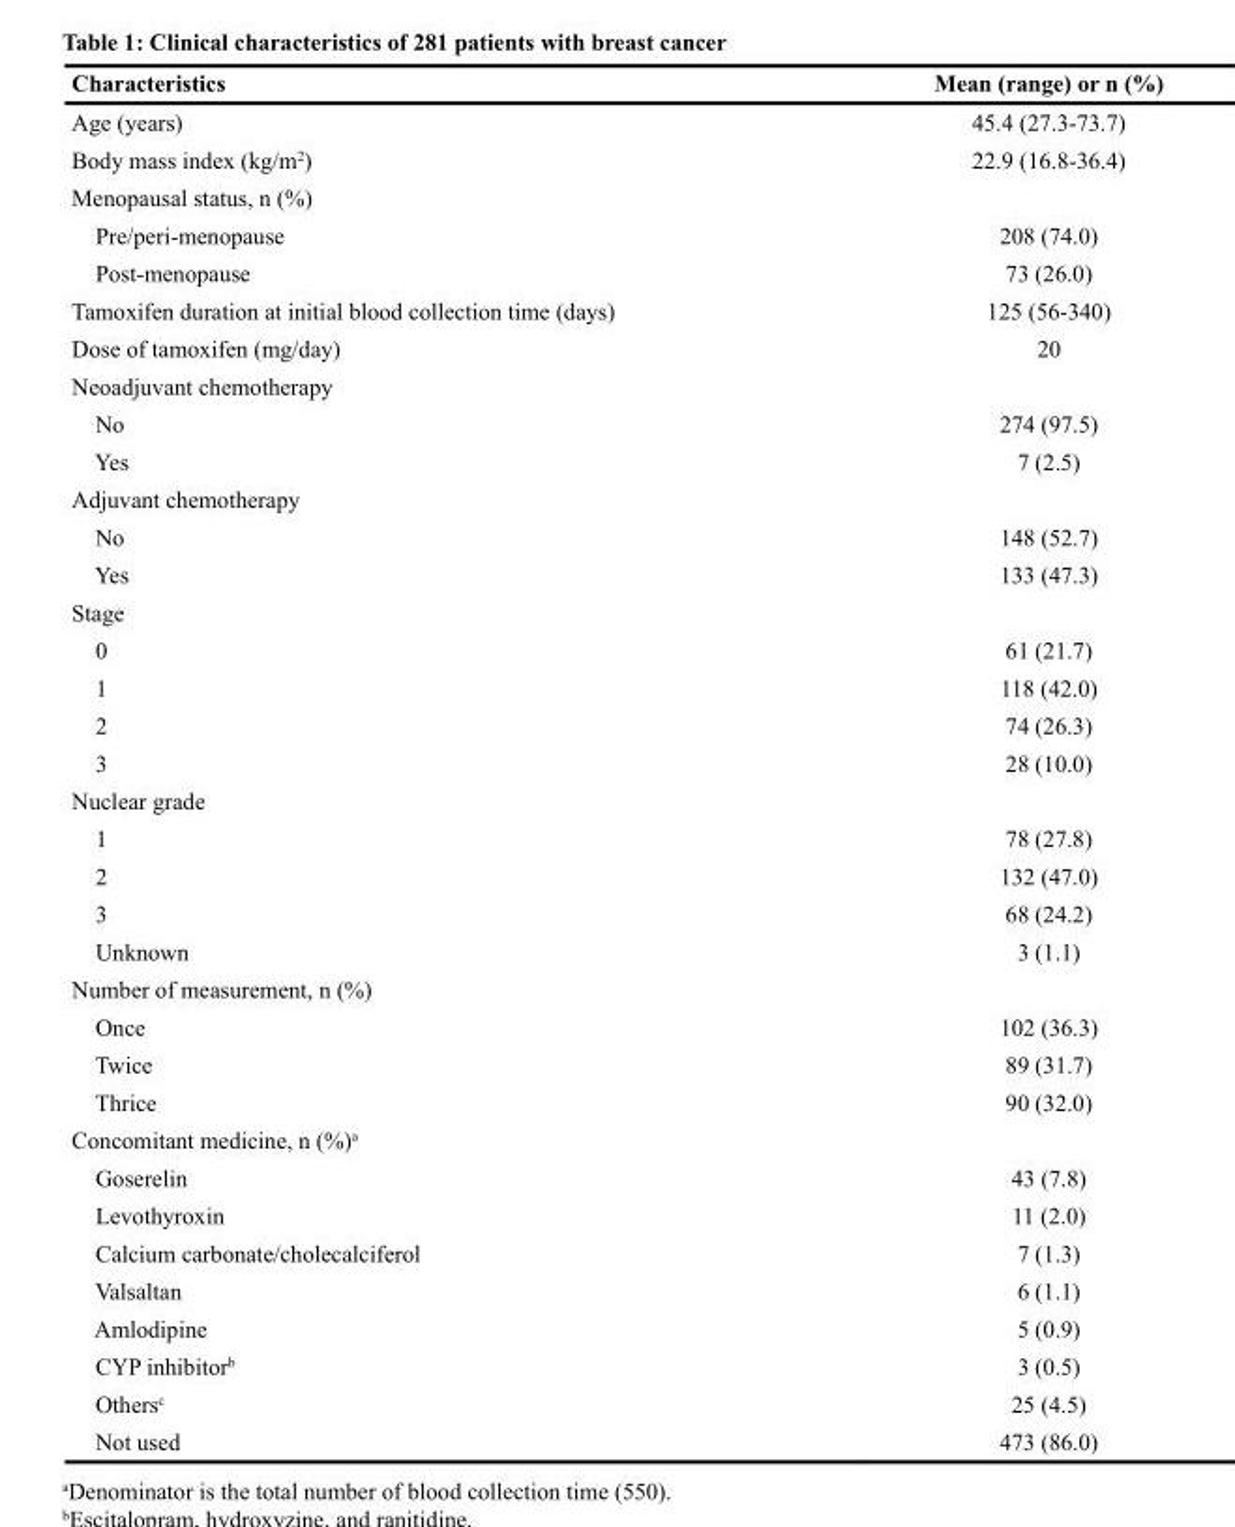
<table><thead><tr><td>Characteristics</td><td>Mean (range) or n (%)</td></tr></thead><tbody><tr><td>Age (years)</td><td>45.4 (27.3-73.7)</td></tr><tr><td>Body mass index (kg/m<sup>2</sup>)</td><td>22.9 (16.8-36.4)</td></tr><tr><td colspan="2">Menopausal status, n (%)</td></tr><tr><td>Pre/peri-menopause</td><td>208 (74.0)</td></tr><tr><td>Post-menopause</td><td>73 (26.0)</td></tr><tr><td>Tamoxifen duration at initial blood collection time (days)</td><td>125 (56-340)</td></tr><tr><td>Dose of tamoxifen (mg/day)</td><td>20</td></tr><tr><td colspan="2">Neoadjuvant chemotherapy</td></tr><tr><td>No</td><td>274 (97.5)</td></tr><tr><td>Yes</td><td>7 (2.5)</td></tr><tr><td colspan="2">Adjuvant chemotherapy</td></tr><tr><td>No</td><td>148 (52.7)</td></tr><tr><td>Yes</td><td>133 (47.3)</td></tr><tr><td colspan="2">Stage</td></tr><tr><td>0</td><td>61 (21.7)</td></tr><tr><td>1</td><td>118 (42.0)</td></tr><tr><td>2</td><td>74 (26.3)</td></tr><tr><td>3</td><td>28 (10.0)</td></tr><tr><td colspan="2">Nuclear grade</td></tr><tr><td>1</td><td>78 (27.8)</td></tr><tr><td>2</td><td>132 (47.0)</td></tr><tr><td>3</td><td>68 (24.2)</td></tr><tr><td>Unknown</td><td>3 (1.1)</td></tr><tr><td colspan="2">Number of measurement, n (%)</td></tr><tr><td>Once</td><td>102 (36.3)</td></tr><tr><td>Twice</td><td>89 (31.7)</td></tr><tr><td>Thrice</td><td>90 (32.0)</td></tr><tr><td colspan="2">Concomitant medicine, n (%)<sup>a</sup></td></tr><tr><td>Goserelin</td><td>43 (7.8)</td></tr><tr><td>Levothyroxin</td><td>11 (2.0)</td></tr><tr><td>Calcium carbonate/cholecalciferol</td><td>7 (1.3)</td></tr><tr><td>Valsaltan</td><td>6 (1.1)</td></tr><tr><td>Amlodipine</td><td>5 (0.9)</td></tr><tr><td>CYP inhibitor<sup>b</sup></td><td>3 (0.5)</td></tr><tr><td>Others<sup>c</sup></td><td>25 (4.5)</td></tr><tr><td>Not used</td><td>473 (86.0)</td></tr></tbody></table>